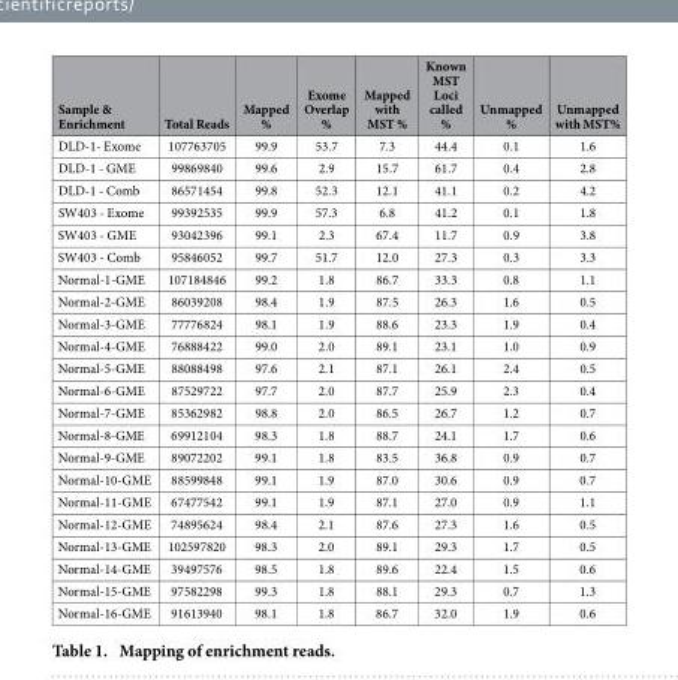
<table><thead><tr><td>Sample &amp; Enrichment</td><td>Total Reads</td><td>Mapped %</td><td>Exome Overlap %</td><td>Mapped with MST %</td><td>Known MST Loci called %</td><td>Unmapped %</td><td>Unmapped with MST%</td></tr></thead><tbody><tr><td>DLD-1- Exome</td><td>107763705</td><td>99.9</td><td>53.7</td><td>7.3</td><td>44.4</td><td>0.1</td><td>1.6</td></tr><tr><td>DLD-1 - GME</td><td>99869840</td><td>99.6</td><td>2.9</td><td>15.7</td><td>61.7</td><td>0.4</td><td>2.8</td></tr><tr><td>DLD-1 - Comb</td><td>86571454</td><td>99.8</td><td>52.3</td><td>12.1</td><td>41.1</td><td>0.2</td><td>4.2</td></tr><tr><td>SW403 - Exome</td><td>99392535</td><td>99.9</td><td>57.3</td><td>6.8</td><td>41.2</td><td>0.1</td><td>1.8</td></tr><tr><td>SW403 - GME</td><td>93042396</td><td>99.1</td><td>2.3</td><td>67.4</td><td>11.7</td><td>0.9</td><td>3.8</td></tr><tr><td>SW403 - Comb</td><td>95846052</td><td>99.7</td><td>51.7</td><td>12.0</td><td>27.3</td><td>0.3</td><td>3.3</td></tr><tr><td>Normal-1-GME</td><td>107184846</td><td>99.2</td><td>1.8</td><td>86.7</td><td>33.3</td><td>0.8</td><td>1.1</td></tr><tr><td>Normal-2-GME</td><td>86039208</td><td>98.4</td><td>1.9</td><td>87.5</td><td>26.3</td><td>1.6</td><td>0.5</td></tr><tr><td>Normal-3-GME</td><td>77776824</td><td>98.1</td><td>1.9</td><td>88.6</td><td>23.3</td><td>1.9</td><td>0.4</td></tr><tr><td>Normal-4-GME</td><td>76888422</td><td>99.0</td><td>2.0</td><td>89.1</td><td>23.1</td><td>1.0</td><td>0.9</td></tr><tr><td>Normal-5-GME</td><td>88088498</td><td>97.6</td><td>2.1</td><td>87.1</td><td>26.1</td><td>2.4</td><td>0.5</td></tr><tr><td>Normal-6-GME</td><td>87529722</td><td>97.7</td><td>2.0</td><td>87.7</td><td>25.9</td><td>2.3</td><td>0.4</td></tr><tr><td>Normal-7-GME</td><td>85362982</td><td>98.8</td><td>2.0</td><td>86.5</td><td>26.7</td><td>1.2</td><td>0.7</td></tr><tr><td>Normal-8-GME</td><td>69912104</td><td>98.3</td><td>1.8</td><td>88.7</td><td>24.1</td><td>1.7</td><td>0.6</td></tr><tr><td>Normal-9-GME</td><td>89072202</td><td>99.1</td><td>1.8</td><td>83.5</td><td>36.8</td><td>0.9</td><td>0.7</td></tr><tr><td>Normal-10-GME</td><td>88599848</td><td>99.1</td><td>1.9</td><td>87.0</td><td>30.6</td><td>0.9</td><td>0.7</td></tr><tr><td>Normal-11-GME</td><td>67477542</td><td>99.1</td><td>1.9</td><td>87.1</td><td>27.0</td><td>0.9</td><td>1.1</td></tr><tr><td>Normal-12-GME</td><td>74895624</td><td>98.4</td><td>2.1</td><td>87.6</td><td>27.3</td><td>1.6</td><td>0.5</td></tr><tr><td>Normal-13-GME</td><td>102597820</td><td>98.3</td><td>2.0</td><td>89.1</td><td>29.3</td><td>1.7</td><td>0.5</td></tr><tr><td>Normal-14-GME</td><td>39497576</td><td>98.5</td><td>1.8</td><td>89.6</td><td>22.4</td><td>1.5</td><td>0.6</td></tr><tr><td>Normal-15-GME</td><td>97582298</td><td>99.3</td><td>1.8</td><td>88.1</td><td>29.3</td><td>0.7</td><td>1.3</td></tr><tr><td>Normal-16-GME</td><td>91613940</td><td>98.1</td><td>1.8</td><td>86.7</td><td>32.0</td><td>1.9</td><td>0.6</td></tr></tbody></table>